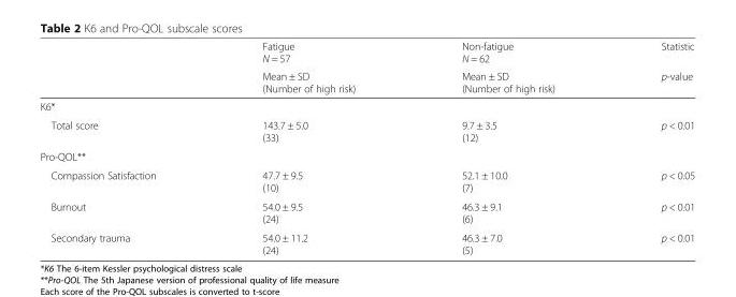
<table><thead><tr><td rowspan="2"></td><td rowspan="2">Fatigue N = 57 Mean ± SD (Number of high risk)</td><td rowspan="2">Non-fatigue N = 62 Mean ± SD (Number of high risk)</td><td rowspan="2">Statistic p-value</td></tr><tr></tr></thead><tbody><tr><td colspan="4">K6*</td></tr><tr><td>Total score</td><td>143.7 ± 5.0 (33)</td><td>9.7 ± 3.5 (12)</td><td>p &lt; 0.01</td></tr><tr><td colspan="4">Pro-QOL**</td></tr><tr><td>Compassion Satisfaction</td><td>47.7 ± 9.5 (10)</td><td>52.1 ± 10.0 (7)</td><td>p &lt; 0.05</td></tr><tr><td>Burnout</td><td>54.0 ± 9.5 (24)</td><td>46.3 ± 9.1 (6)</td><td>p &lt; 0.01</td></tr><tr><td>Secondary trauma</td><td>54.0 ± 11.2 (24)</td><td>46.3 ± 7.0 (5)</td><td>p &lt; 0.01</td></tr></tbody></table>